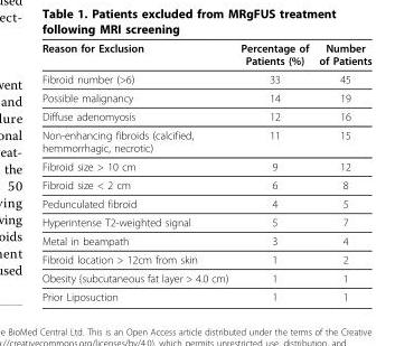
<table><thead><tr><td>Reason for Exclusion</td><td>Percentage of Patients (%)</td><td>Number of Patients</td></tr></thead><tbody><tr><td>Fibroid number (&gt;6)</td><td>33</td><td>45</td></tr><tr><td>Possible malignancy</td><td>14</td><td>19</td></tr><tr><td>Diffuse adenomyosis</td><td>12</td><td>16</td></tr><tr><td>Non-enhancing fibroids (calcified, hemmorrhagic, necrotic)</td><td>11</td><td>15</td></tr><tr><td>Fibroid size &gt; 10 cm</td><td>9</td><td>12</td></tr><tr><td>Fibroid size &lt; 2 cm</td><td>6</td><td>8</td></tr><tr><td>Pedunculated fibroid</td><td>4</td><td>5</td></tr><tr><td>Hyperintense T2-weighted signal</td><td>5</td><td>7</td></tr><tr><td>Metal in beampath</td><td>3</td><td>4</td></tr><tr><td>Fibroid location &gt; 12cm from skin</td><td>1</td><td>2</td></tr><tr><td>Obesity {subcutaneous fat layer &gt; 4.0 cm)</td><td>1</td><td>1</td></tr><tr><td>Prior Liposuction</td><td>1</td><td>1</td></tr></tbody></table>